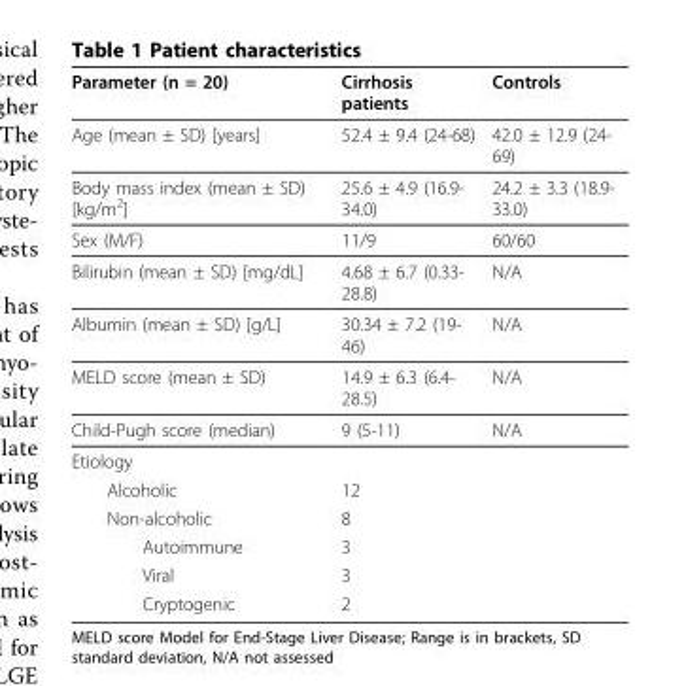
<table><thead><tr><td>Parameter (n = 20)</td><td>Cirrhosis patients</td><td>Controls</td></tr></thead><tbody><tr><td>Age (mean ± SD) [years]</td><td>52.4 ± 9.4 (24-68)</td><td>42.0 ± 12.9 (24- 69)</td></tr><tr><td>Body mass index (mean ± SD) [kg/m<sup>2</sup>]</td><td>25.6 ± 4.9 (16.9- 34.0)</td><td>24.2 ± 3.3 (18.9- 33.0)</td></tr><tr><td>Sex (M/F)</td><td>11/9</td><td>60/60</td></tr><tr><td>Bilirubin (mean ± SD) [mg/dL]</td><td>4.68 ± 6.7 (0.33- 28.8)</td><td>N/A</td></tr><tr><td>Albumin (mean ± SD) [g/L]</td><td>30.34 ± 7.2 (19- 46)</td><td>N/A</td></tr><tr><td>MELD score (mean ± SD)</td><td>14.9 ± 6.3 (6.4- 28.5)</td><td>N/A</td></tr><tr><td>Child-Pugh score (median)</td><td>9 (5-11)</td><td>N/A</td></tr><tr><td colspan="3">Etiology</td></tr><tr><td>Alcoholic</td><td>12</td><td></td></tr><tr><td>Non-alcoholic</td><td>8</td><td></td></tr><tr><td>Autoimmune</td><td>3</td><td></td></tr><tr><td>Viral</td><td>3</td><td></td></tr><tr><td>Cryptogenic</td><td>2</td><td></td></tr></tbody></table>